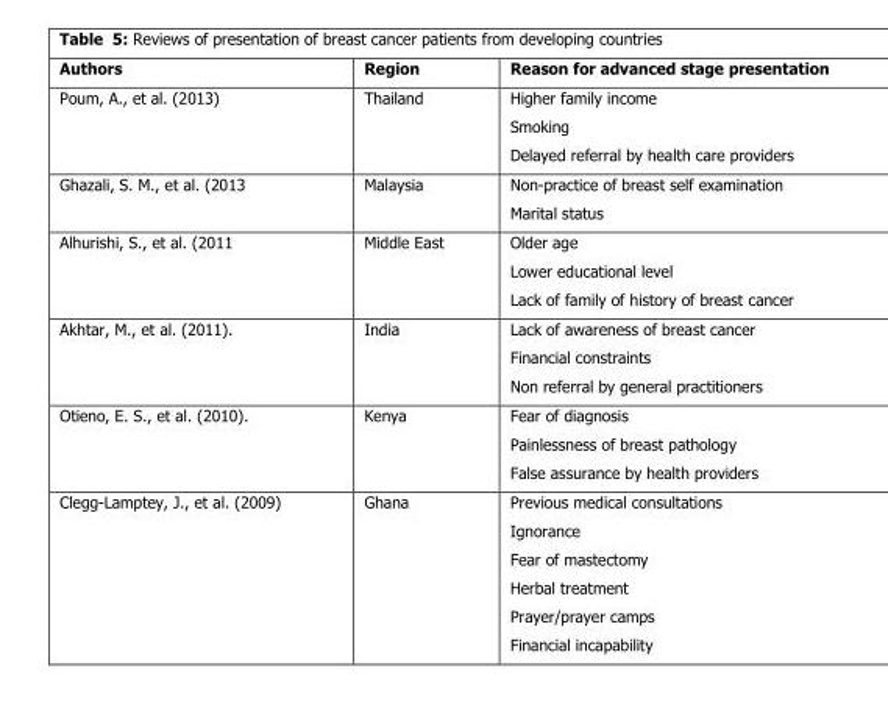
<table><thead><tr><td>Authors</td><td>Region</td><td>Reason for advanced stage presentation</td></tr></thead><tbody><tr><td>Poum, A., et al. (2013)</td><td>Thailand</td><td>Higher family income Smoking Delayed referral by health care providers</td></tr><tr><td>Ghazali, S. M., et al. (2013</td><td>Malaysia</td><td>Non-practice of breast self examination Marital status</td></tr><tr><td>Alhurishi, S., et al. (2011</td><td>Middle East</td><td>Older age Lower educational level Lack of family of history of breast cancer</td></tr><tr><td>Akhtar, M., et al. (2011).</td><td>India</td><td>Lack of awareness of breast cancer Financial constraints Non referral by general practitioners</td></tr><tr><td>Otieno, E. S., et al. (2010).</td><td>Kenya</td><td>Fear of diagnosis Painlessness of breast pathology False assurance by health providers</td></tr><tr><td>Clegg-Lamptey, J., et al. (2009)</td><td>Ghana</td><td>Previous medical consultations Ignorance Fear of mastectomy Herbal treatment Prayer/prayer camps Financial incapability</td></tr></tbody></table>